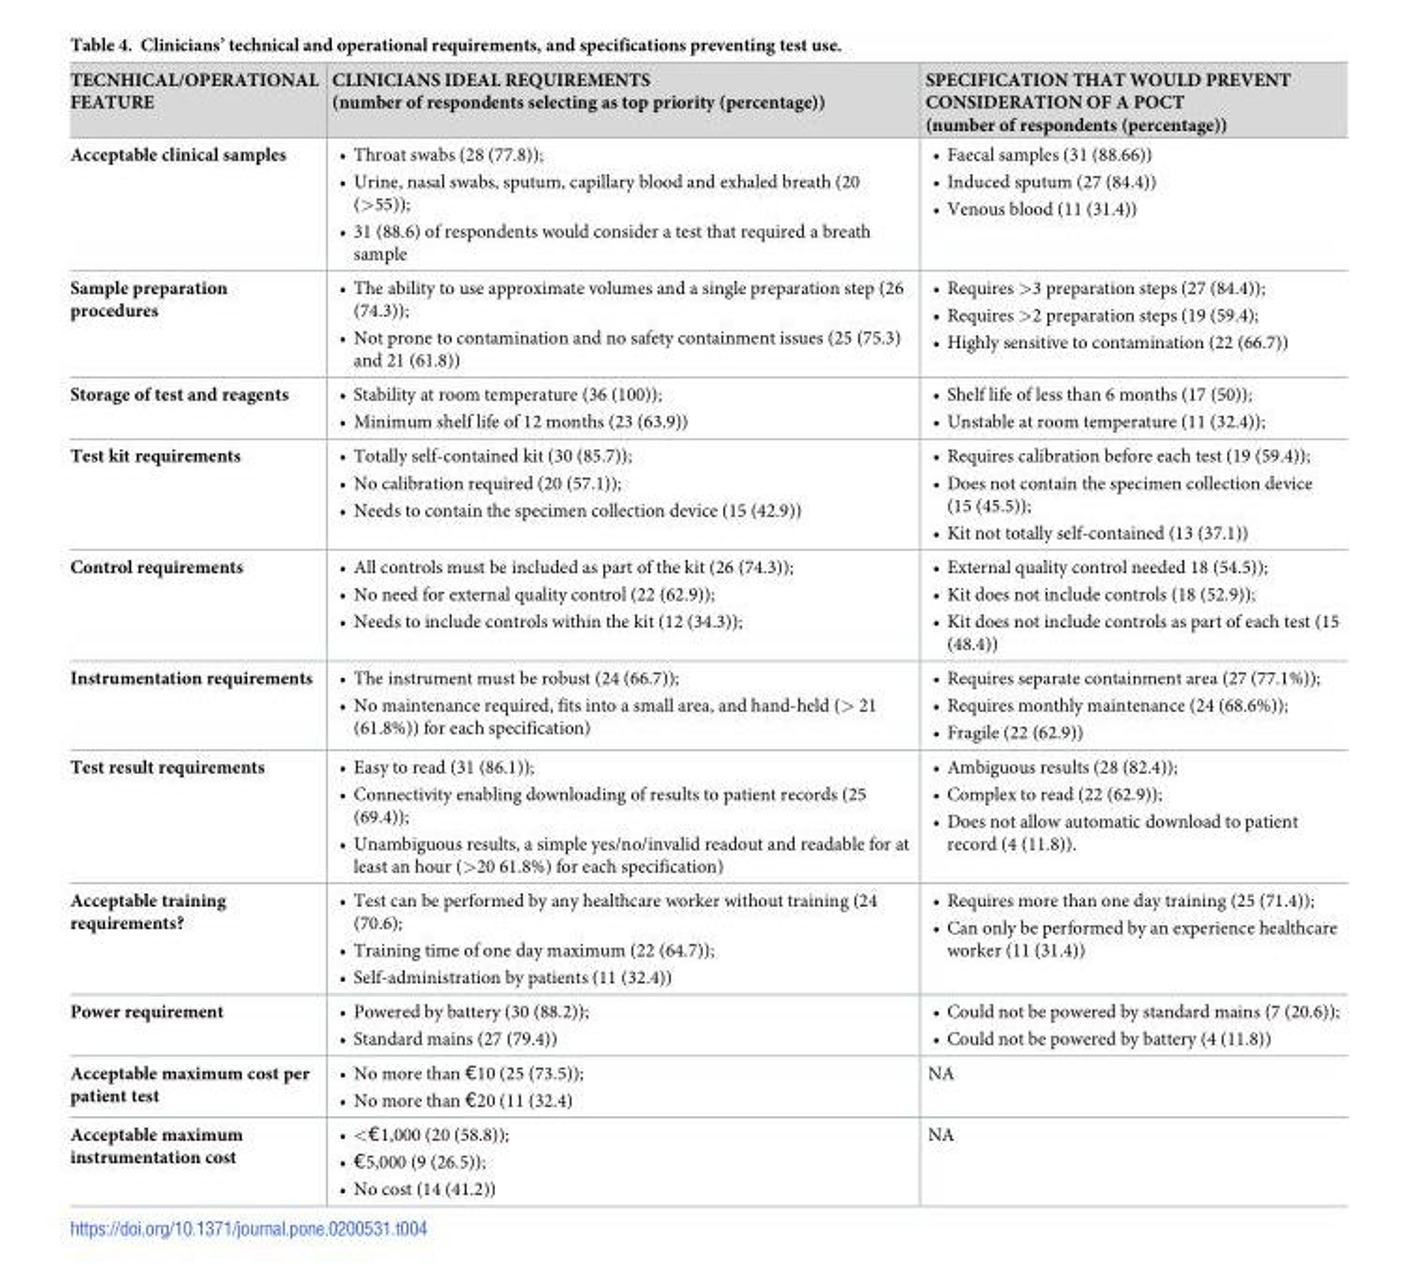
<table><thead><tr><td>TECNHICAL/OPERATIONAL FEATURE</td><td>CLINICIANS IDEAL REQUIREMENTS (number of respondents selecting as top priority (percentage))</td><td>SPECIFICATION THAT WOULD PREVENT CONSIDERATION OF A POCT (number of respondents (percentage))</td></tr></thead><tbody><tr><td>Acceptable clinical samples</td><td>• Throat swabs (28 (77.8)); • Urine, nasal swabs, sputum, capillary blood and exhaled breath (20 (&gt;55)); • 31 (88.6) of respondents would consider a test that required a breath sample</td><td>• Faecal samples (31 (88.66)) • Induced sputum (27 (84.4)) • Venous blood (11 (31.4))</td></tr><tr><td>Sample preparation procedures</td><td>• The ability to use approximate volumes and a single preparation step (26 (74.3)); • Not prone to contamination and no safety containment issues (25 (75.3) and 21 (61.8))</td><td>• Requires &gt;3 preparation steps (27 (84.4)); • Requires &gt;2 preparation steps (19 (59.4); • Highly sensitive to contamination (22 (66.7))</td></tr><tr><td>Storage of test and reagents</td><td>• Stability at room temperature (36 (100)); • Minimum shelf life of 12 months (23 (63.9))</td><td>• Shelf life of less than 6 months (17 (50)); • Unstable at room temperature (11 (32.4));</td></tr><tr><td>Test kit requirements</td><td>• Totally self-contained kit (30 (85.7)); • No calibration required (20 (57.1)); • Needs to contain the specimen collection device (15 (42.9))</td><td>• Requires calibration before each test (19 (59.4)); • Does not contain the specimen collection device (15 (45.5)); • Kit not totally self-contained (13 (37.1))</td></tr><tr><td>Control requirements</td><td>• All controls must be included as part of the kit (26 (74.3)); • No need for external quality control (22 (62.9)); • Needs to include controls within the kit (12 (34.3));</td><td>• External quality control needed 18 (54.5)); • Kit does not include controls (18 (52.9)); • Kit does not include controls as part of each test (15 (48.4))</td></tr><tr><td>Instrumentation requirements</td><td>• The instrument must be robust (24 (66.7)); • No maintenance required, fits into a small area, and hand-held (&gt; 21 (61.8%)) for each specification)</td><td>• Requires separate containment area (27 (77.1%)); • Requires monthly maintenance (24 (68.6%)); • Fragile (22 (62.9))</td></tr><tr><td>Test result requirements</td><td>• Easy to read (31 (86.1)); • Connectivity enabling downloading of results to patient records (25 (69.4)); • Unambiguous results, a simple yes/no/invalid readout and readable for at least an hour (&gt;20 61.8%) for each specification)</td><td>• Ambiguous results (28 (82.4)); • Complex to read (22 (62.9)); • Does not allow automatic download to patient record (4 (11.8)).</td></tr><tr><td>Acceptable training requirements?</td><td>• Test can be performed by any healthcare worker without training (24 (70.6); • Training time of one day maximum (22 (64.7)); • Self-administration by patients (11 (32.4))</td><td>• Requires more than one day training (25 (71.4)); • Can only be performed by an experience healthcare worker (11 (31.4))</td></tr><tr><td>Power requirement</td><td>• Powered by battery (30 (88.2)); • Standard mains (27 (79.4))</td><td>• Could not be powered by standard mains (7 (20.6)); • Could not be powered by battery (4 (11.8))</td></tr><tr><td>Acceptable maximum cost per patient test</td><td>• No more than €10 (25 (73.5)); • No more than €20 (11 (32.4)</td><td>NA</td></tr><tr><td>Acceptable maximum instrumentation cost</td><td>• &lt;€1,000 (20 (58.8)); • €5,000 (9 (26.5)); • No cost (14 (41.2))</td><td>NA</td></tr></tbody></table>